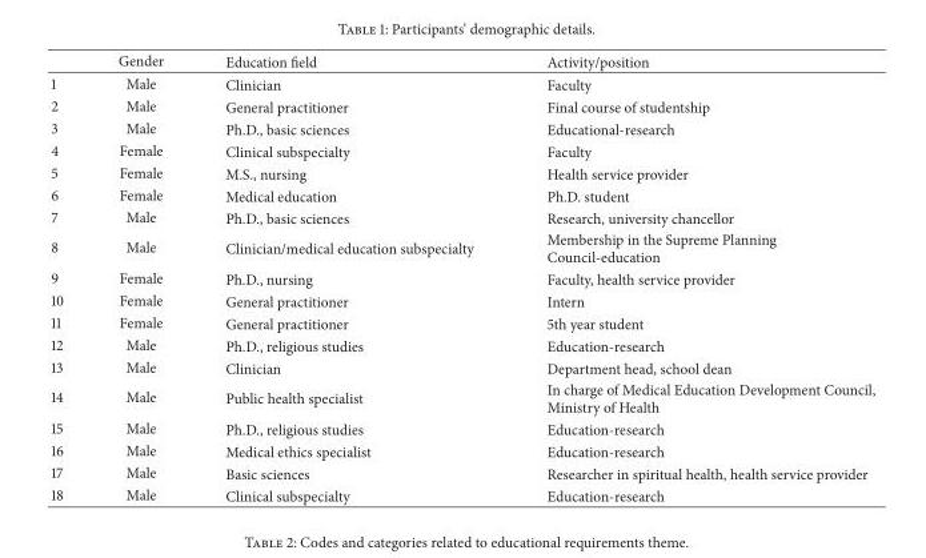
<table><thead><tr><td></td><td>Gender</td><td>Education field</td><td>Activity/position</td></tr></thead><tbody><tr><td>1</td><td>Male</td><td>Clinician</td><td>Faculty</td></tr><tr><td>2</td><td>Male</td><td>General practitioner</td><td>Final course of studentship</td></tr><tr><td>3</td><td>Male</td><td>Ph.D., basic sciences</td><td>Educational-research</td></tr><tr><td>4</td><td>Female</td><td>Clinical subspecialty</td><td>Faculty</td></tr><tr><td>5</td><td>Female</td><td>M.S., nursing</td><td>Health service provider</td></tr><tr><td>6</td><td>Female</td><td>Medical education</td><td>Ph.D. student</td></tr><tr><td>7</td><td>Male</td><td>Ph.D., basic sciences</td><td>Research, university chancellor</td></tr><tr><td>8</td><td>Male</td><td>Clinician/medical education subspecialty</td><td>Membership in the Supreme Planning Council-education</td></tr><tr><td>9</td><td>Female</td><td>Ph.D., nursing</td><td>Faculty, health service provider</td></tr><tr><td>10</td><td>Female</td><td>General practitioner</td><td>Intern</td></tr><tr><td>11</td><td>Female</td><td>General practitioner</td><td>5th year student</td></tr><tr><td>12</td><td>Male</td><td>Ph.D., religious studies</td><td>Education-research</td></tr><tr><td>13</td><td>Male</td><td>Clinician</td><td>Department head, school dean</td></tr><tr><td>14</td><td>Male</td><td>Public health specialist</td><td>In charge of Medical Education Development Council, Ministry of Health</td></tr><tr><td>15</td><td>Male</td><td>Ph.D., religious studies</td><td>Education-research</td></tr><tr><td>16</td><td>Male</td><td>Medical ethics specialist</td><td>Education-research</td></tr><tr><td>17</td><td>Male</td><td>Basic sciences</td><td>Researcher in spiritual health, health service provider</td></tr><tr><td>18</td><td>Male</td><td>Clinical subspecialty</td><td>Education-research</td></tr></tbody></table>